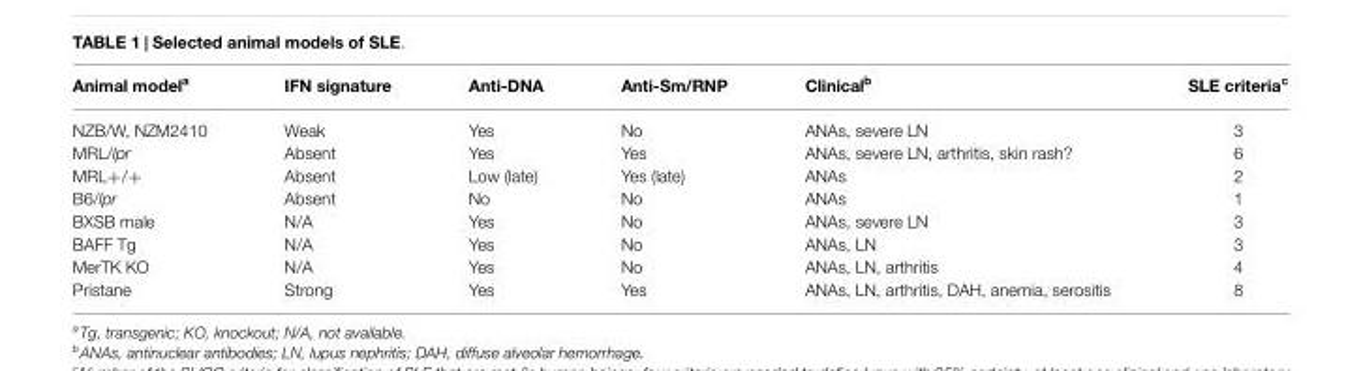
<table><thead><tr><td>Animal model<sup>a</sup></td><td>IFN signature</td><td>Anti-DNA</td><td>Anti-Sm/RNP</td><td>Clinical<sup>b</sup></td><td>SLE criteria<sup>c</sup></td></tr></thead><tbody><tr><td>NZB/W, NZM2410</td><td>Weak</td><td>Yes</td><td>No</td><td>ANAs, severe LN</td><td>3</td></tr><tr><td>MRL/lpr</td><td>Absent</td><td>Yes</td><td>Yes</td><td>ANAs, severe LN, arthritis, skin rash?</td><td>6</td></tr><tr><td>MRL+/+</td><td>Absent</td><td>Low (late)</td><td>Yes (late)</td><td>ANAs</td><td>2</td></tr><tr><td>B6/lpr</td><td>Absent</td><td>No</td><td>No</td><td>ANAs</td><td>1</td></tr><tr><td>BXSB male</td><td>N/A</td><td>Yes</td><td>No</td><td>ANAs, severe LN</td><td>3</td></tr><tr><td>BAFF Tg</td><td>N/A</td><td>Yes</td><td>No</td><td>ANAs, LN</td><td>3</td></tr><tr><td>MerTK KO</td><td>N/A</td><td>Yes</td><td>No</td><td>ANAs, LN, arthritis</td><td>4</td></tr><tr><td>Pristane</td><td>Strong</td><td>Yes</td><td>Yes</td><td>ANAs, LN, arthritis, DAH, anemia, serositis</td><td>8</td></tr></tbody></table>